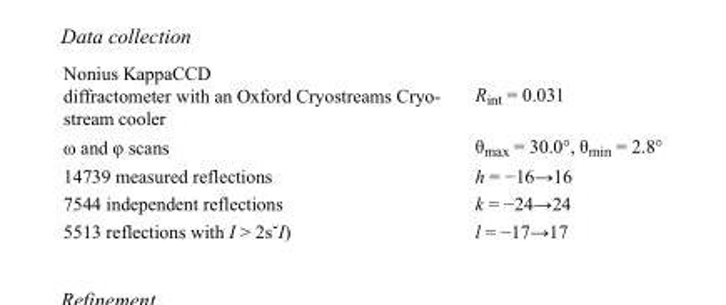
<table><tbody><tr><td>Nonius KappaCCD diffractometer with an Oxford Cryostreams Cryo- stream cooler</td><td>R<sub>int</sub> = 0.031</td></tr><tr><td>ω and φ scans</td><td>θ<sub>max</sub> = 30.0°, θ<sub>min</sub> = 2.8°</td></tr><tr><td>14739 measured reflections</td><td>h = −16→16</td></tr><tr><td>7544 independent reflections</td><td>k = −24→24</td></tr><tr><td>5513 reflections with I &gt; 2s˘I)</td><td>l = −17→17</td></tr></tbody></table>